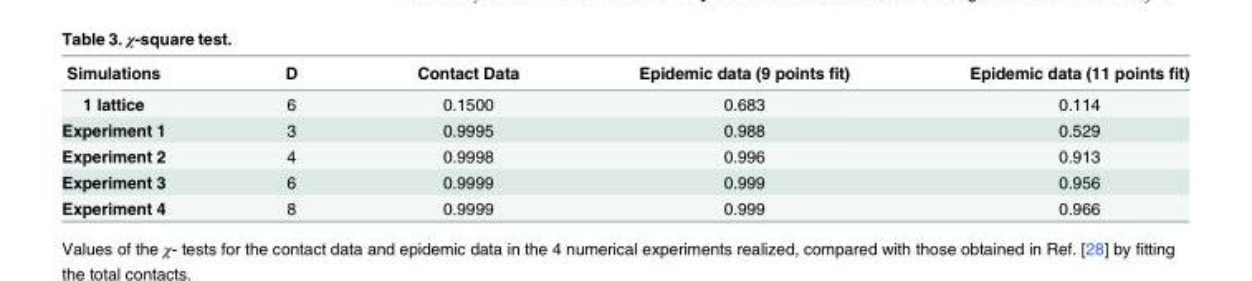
<table><thead><tr><td>Simulations</td><td>D</td><td>Contact Data</td><td>Epidemic data (9 points fit)</td><td>Epidemic data (11 points fit)</td></tr></thead><tbody><tr><td>1 lattice</td><td>6</td><td>0.1500</td><td>0.683</td><td>0.114</td></tr><tr><td>Experiment 1</td><td>3</td><td>0.9995</td><td>0.988</td><td>0.529</td></tr><tr><td>Experiment 2</td><td>4</td><td>0.9998</td><td>0.996</td><td>0.913</td></tr><tr><td>Experiment 3</td><td>6</td><td>0.9999</td><td>0.999</td><td>0.956</td></tr><tr><td>Experiment 4</td><td>8</td><td>0.9999</td><td>0.999</td><td>0.966</td></tr></tbody></table>